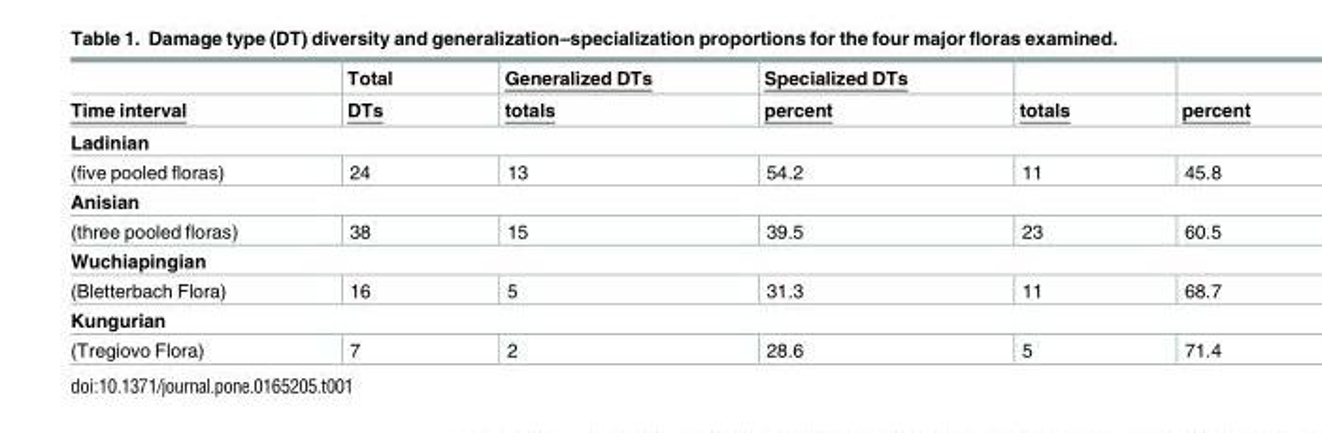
<table><thead><tr><td rowspan="2">Time interval</td><td rowspan="2">Total DTs</td><td rowspan="2">Generalized DTs totals</td><td rowspan="2">Specialized DTs percent</td><td rowspan="2">totals</td><td rowspan="2">percent</td></tr><tr></tr></thead><tbody><tr><td colspan="6">Ladinian</td></tr><tr><td>(five pooled floras)</td><td>24</td><td>13</td><td>54.2</td><td>11</td><td>45.8</td></tr><tr><td colspan="6">Anisian</td></tr><tr><td>(three pooled floras)</td><td>38</td><td>15</td><td>39.5</td><td>23</td><td>60.5</td></tr><tr><td colspan="6">Wuchiapingian</td></tr><tr><td>(Bletterbach Flora)</td><td>16</td><td>5</td><td>31.3</td><td>11</td><td>68.7</td></tr><tr><td colspan="6">Kungurian</td></tr><tr><td>(Tregiovo Flora)</td><td>7</td><td>2</td><td>28.6</td><td>5</td><td>71.4</td></tr></tbody></table>